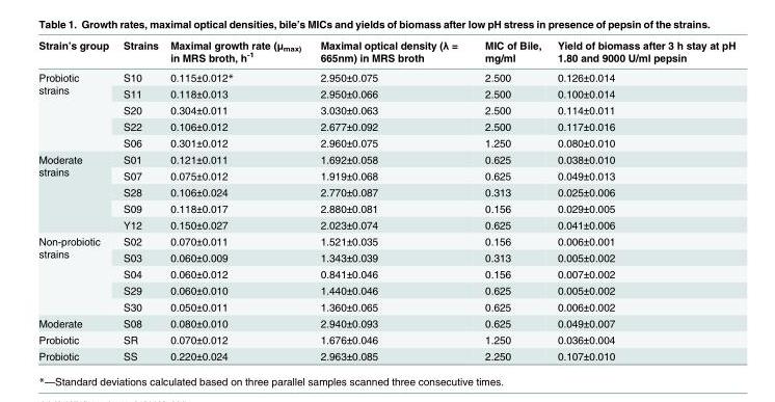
<table><thead><tr><td>Strain’s group</td><td>Strains</td><td>Maximal growth rate (μ<sub>max)</sub> in MRS broth, h<sup>-1</sup></td><td>Maximal optical density (λ = 665nm) in MRS broth</td><td>MIC of Bile, mg/ml</td><td>Yield of biomass after 3 h stay at pH 1.80 and 9000 U/ml pepsin</td></tr></thead><tbody><tr><td rowspan="5">Probiotic strains</td><td>S10</td><td>0.115±0.012*</td><td>2.950±0.075</td><td>2.500</td><td>0.126±0.014</td></tr><tr><td>S11</td><td>0.118±0.013</td><td>2.950±0.066</td><td>2.500</td><td>0.100±0.014</td></tr><tr><td>S20</td><td>0.304±0.011</td><td>3.030±0.063</td><td>2.500</td><td>0.114±0.011</td></tr><tr><td>S22</td><td>0.106±0.012</td><td>2.677±0.092</td><td>2.500</td><td>0.117±0.016</td></tr><tr><td>S06</td><td>0.301±0.012</td><td>2.960±0.075</td><td>1.250</td><td>0.080±0.010</td></tr><tr><td rowspan="5">Moderate strains</td><td>S01</td><td>0.121±0.011</td><td>1.692±0.058</td><td>0.625</td><td>0.038±0.010</td></tr><tr><td>S07</td><td>0.075±0.012</td><td>1.919±0.068</td><td>0.625</td><td>0.049±0.013</td></tr><tr><td>S28</td><td>0.106±0.024</td><td>2.770±0.087</td><td>0.313</td><td>0.025±0.006</td></tr><tr><td>S09</td><td>0.118±0.017</td><td>2.880±0.081</td><td>0.156</td><td>0.029±0.005</td></tr><tr><td>Y12</td><td>0.150±0.027</td><td>2.023±0.074</td><td>0.625</td><td>0.041±0.006</td></tr><tr><td rowspan="5">Non-probiotic strains</td><td>S02</td><td>0.070±0.011</td><td>1.521±0.035</td><td>0.156</td><td>0.006±0.001</td></tr><tr><td>S03</td><td>0.060±0.009</td><td>1.343±0.039</td><td>0.313</td><td>0.005±0.002</td></tr><tr><td>S04</td><td>0.060±0.012</td><td>0.841±0.046</td><td>0.156</td><td>0.007±0.002</td></tr><tr><td>S29</td><td>0.060±0.010</td><td>1.440±0.046</td><td>0.625</td><td>0.005±0.002</td></tr><tr><td>S30</td><td>0.050±0.011</td><td>1.360±0.065</td><td>0.625</td><td>0.006±0.002</td></tr><tr><td>Moderate</td><td>S08</td><td>0.080±0.010</td><td>2.940±0.093</td><td>0.625</td><td>0.049±0.007</td></tr><tr><td>Probiotic</td><td>SR</td><td>0.070±0.012</td><td>1.676±0.046</td><td>1.250</td><td>0.036±0.004</td></tr><tr><td>Probiotic</td><td>SS</td><td>0.220±0.024</td><td>2.963±0.085</td><td>2.250</td><td>0.107±0.010</td></tr></tbody></table>